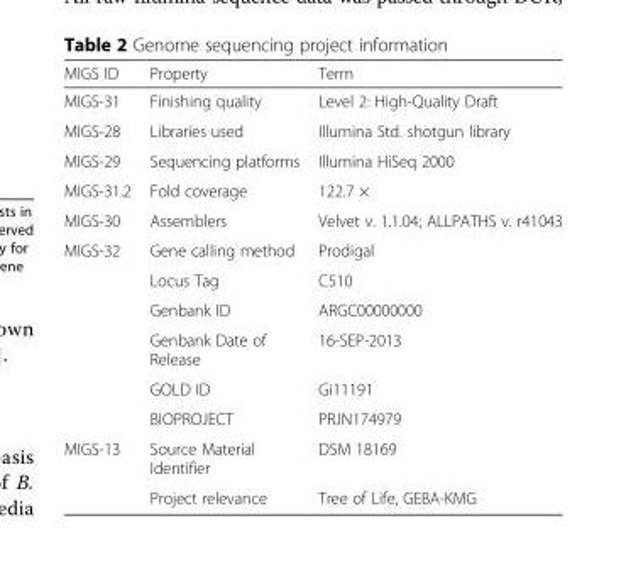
<table><thead><tr><td>MIGS ID</td><td>Property</td><td>Term</td></tr></thead><tbody><tr><td>MIGS-31</td><td>Finishing quality</td><td>Level 2: High-Quality Draft</td></tr><tr><td>MIGS-28</td><td>Libraries used</td><td>Illumina Std. shotgun library</td></tr><tr><td>MIGS-29</td><td>Sequencing platforms</td><td>Illumina HiSeq 2000</td></tr><tr><td>MIGS-31.2</td><td>Fold coverage</td><td>122.7 ×</td></tr><tr><td>MIGS-30</td><td>Assemblers</td><td>Velvet v. 1.1.04; ALLPATHS v. r41043</td></tr><tr><td rowspan="6">MIGS-32</td><td>Gene calling method</td><td>Prodigal</td></tr><tr><td>Locus Tag</td><td>C510</td></tr><tr><td>Genbank ID</td><td>ARGC00000000</td></tr><tr><td>Genbank Date of Release</td><td>16-SEP-2013</td></tr><tr><td>GOLD ID</td><td>Gi11191</td></tr><tr><td>BIOPROJECT</td><td>PRJN174979</td></tr><tr><td rowspan="2">MIGS-13</td><td>Source Material Identifier</td><td>DSM 18169</td></tr><tr><td>Project relevance</td><td>Tree of Life, GEBA-KMG</td></tr></tbody></table>